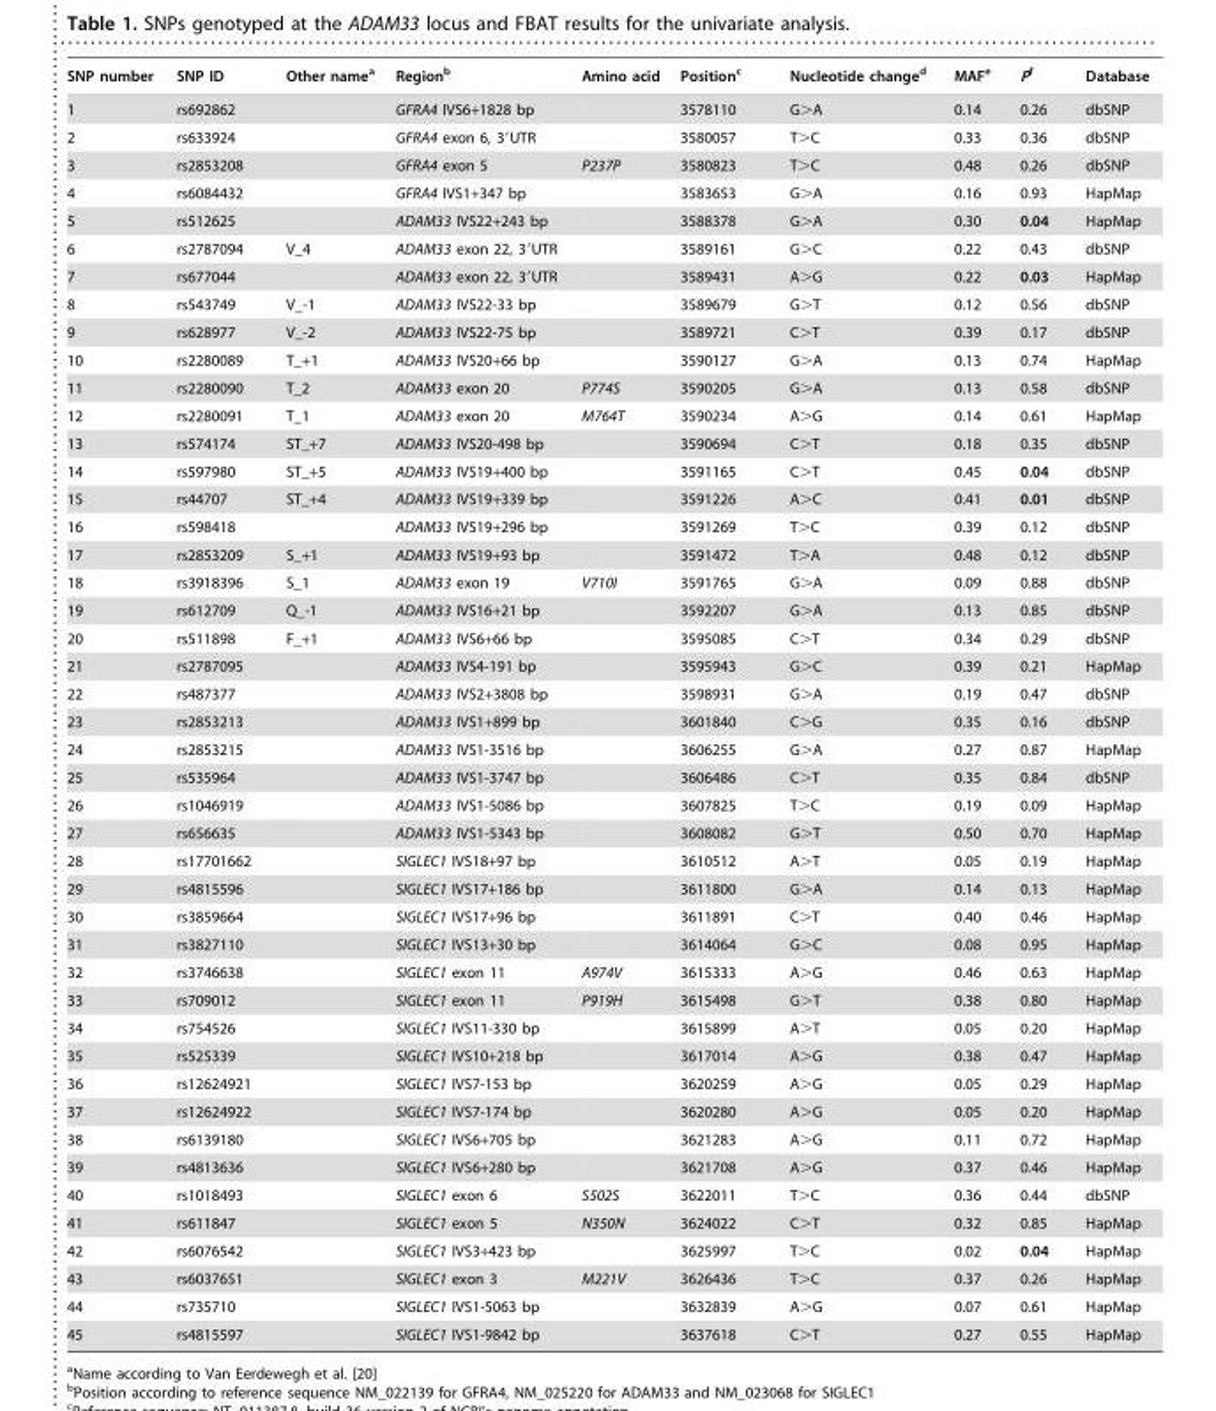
<table><thead><tr><td>SNP number</td><td>SNP ID</td><td>Other name<sup>a</sup></td><td>Region<sup>b</sup></td><td>Amino acid</td><td>Position<sup>c</sup></td><td>Nucleotide change<sup>d</sup></td><td>MAF<sup>e</sup></td><td>Pf</td><td>Database</td></tr></thead><tbody><tr><td>1</td><td>rs692862</td><td></td><td>GFRA4 IVS6+1828 bp</td><td></td><td>3578110</td><td>G&gt;A</td><td>0.14</td><td>0.26</td><td>dbSNP</td></tr><tr><td>2</td><td>rs633924</td><td></td><td>GFRA4 exon 6, 3′UTR</td><td></td><td>3580057</td><td>T&gt;C</td><td>0.33</td><td>0.36</td><td>dbSNP</td></tr><tr><td>3</td><td>rs2853208</td><td></td><td>GFRA4 exon 5</td><td>P237P</td><td>3580823</td><td>T&gt;C</td><td>0.48</td><td>0.26</td><td>dbSNP</td></tr><tr><td>4</td><td>rs6084432</td><td></td><td>GFRA4 IVS1+347 bp</td><td></td><td>3583653</td><td>G&gt;A</td><td>0.16</td><td>0.93</td><td>HapMap</td></tr><tr><td>5</td><td>rs512625</td><td></td><td>ADAM33 IVS22+243 bp</td><td></td><td>3588378</td><td>G&gt;A</td><td>0.30</td><td>0.04</td><td>HapMap</td></tr><tr><td>6</td><td>rs2787094</td><td>V_4</td><td>ADAM33 exon 22, 3′UTR</td><td></td><td>3589161</td><td>G&gt;C</td><td>0.22</td><td>0.43</td><td>dbSNP</td></tr><tr><td>7</td><td>rs677044</td><td></td><td>ADAM33 exon 22, 3′UTR</td><td></td><td>3589431</td><td>A&gt;G</td><td>0.22</td><td>0.03</td><td>HapMap</td></tr><tr><td>8</td><td>rs543749</td><td>V_-1</td><td>ADAM33 IVS22-33 bp</td><td></td><td>3589679</td><td>G&gt;T</td><td>0.12</td><td>0.56</td><td>dbSNP</td></tr><tr><td>9</td><td>rs628977</td><td>V_-2</td><td>ADAM33 IVS22-75 bp</td><td></td><td>3589721</td><td>C&gt;T</td><td>0.39</td><td>0.17</td><td>dbSNP</td></tr><tr><td>10</td><td>rs2280089</td><td>T_+1</td><td>ADAM33 IVS20+66 bp</td><td></td><td>3590127</td><td>G&gt;A</td><td>0.13</td><td>0.74</td><td>HapMap</td></tr><tr><td>11</td><td>rs2280090</td><td>T_2</td><td>ADAM33 exon 20</td><td>P774S</td><td>3590205</td><td>G&gt;A</td><td>0.13</td><td>0.58</td><td>dbSNP</td></tr><tr><td>12</td><td>rs2280091</td><td>T_1</td><td>ADAM33 exon 20</td><td>M764T</td><td>3590234</td><td>A&gt;G</td><td>0.14</td><td>0.61</td><td>HapMap</td></tr><tr><td>13</td><td>rs574174</td><td>ST_+7</td><td>ADAM33 IVS20-498 bp</td><td></td><td>3590694</td><td>C&gt;T</td><td>0.18</td><td>0.35</td><td>dbSNP</td></tr><tr><td>14</td><td>rs597980</td><td>ST_+5</td><td>ADAM33 IVS19+400 bp</td><td></td><td>3591165</td><td>C&gt;T</td><td>0.45</td><td>0.04</td><td>dbSNP</td></tr><tr><td>15</td><td>rs44707</td><td>ST_+4</td><td>ADAM33 IVS19+339 bp</td><td></td><td>3591226</td><td>A&gt;C</td><td>0.41</td><td>0.01</td><td>dbSNP</td></tr><tr><td>16</td><td>rs598418</td><td></td><td>ADAM33 IVS19+296 bp</td><td></td><td>3591269</td><td>T&gt;C</td><td>0.39</td><td>0.12</td><td>dbSNP</td></tr><tr><td>17</td><td>rs2853209</td><td>S_+1</td><td>ADAM33 IVS19+93 bp</td><td></td><td>3591472</td><td>T&gt;A</td><td>0.48</td><td>0.12</td><td>dbSNP</td></tr><tr><td>18</td><td>rs3918396</td><td>S_1</td><td>ADAM33 exon 19</td><td>V710I</td><td>3591765</td><td>G&gt;A</td><td>0.09</td><td>0.88</td><td>dbSNP</td></tr><tr><td>19</td><td>rs612709</td><td>Q_-1</td><td>ADAM33 IVS16+21 bp</td><td></td><td>3592207</td><td>G&gt;A</td><td>0.13</td><td>0.85</td><td>dbSNP</td></tr><tr><td>20</td><td>rs511898</td><td>F_+1</td><td>ADAM33 IVS6+66 bp</td><td></td><td>3595085</td><td>C&gt;T</td><td>0.34</td><td>0.29</td><td>dbSNP</td></tr><tr><td>21</td><td>rs2787095</td><td></td><td>ADAM33 IVS4-191 bp</td><td></td><td>3595943</td><td>G&gt;C</td><td>0.39</td><td>0.21</td><td>HapMap</td></tr><tr><td>22</td><td>rs487377</td><td></td><td>ADAM33 IVS2+3808 bp</td><td></td><td>3598931</td><td>G&gt;A</td><td>0.19</td><td>0.47</td><td>dbSNP</td></tr><tr><td>23</td><td>rs2853213</td><td></td><td>ADAM33 IVS1+899 bp</td><td></td><td>3601840</td><td>C&gt;G</td><td>0.35</td><td>0.16</td><td>dbSNP</td></tr><tr><td>24</td><td>rs2853215</td><td></td><td>ADAM33 IVS1-3516 bp</td><td></td><td>3606255</td><td>G&gt;A</td><td>0.27</td><td>0.87</td><td>HapMap</td></tr><tr><td>25</td><td>rs535964</td><td></td><td>ADAM33 IVS1-3747 bp</td><td></td><td>3606486</td><td>C&gt;T</td><td>0.35</td><td>0.84</td><td>dbSNP</td></tr><tr><td>26</td><td>rs1046919</td><td></td><td>ADAM33 IVS1-5086 bp</td><td></td><td>3607825</td><td>T&gt;C</td><td>0.19</td><td>0.09</td><td>HapMap</td></tr><tr><td>27</td><td>rs656635</td><td></td><td>ADAM33 IVS1-5343 bp</td><td></td><td>3608082</td><td>G&gt;T</td><td>0.50</td><td>0.70</td><td>HapMap</td></tr><tr><td>28</td><td>rs17701662</td><td></td><td>SIGLEC1 IVS18+97 bp</td><td></td><td>3610512</td><td>A&gt;T</td><td>0.05</td><td>0.19</td><td>HapMap</td></tr><tr><td>29</td><td>rs4815596</td><td></td><td>SIGLEC1 IVS17+186 bp</td><td></td><td>3611800</td><td>G&gt;A</td><td>0.14</td><td>0.13</td><td>HapMap</td></tr><tr><td>30</td><td>rs3859664</td><td></td><td>SIGLEC1 IVS17+96 bp</td><td></td><td>3611891</td><td>C&gt;T</td><td>0.40</td><td>0.46</td><td>HapMap</td></tr><tr><td>31</td><td>rs3827110</td><td></td><td>SIGLEC1 IVS13+30 bp</td><td></td><td>3614064</td><td>G&gt;C</td><td>0.08</td><td>0.95</td><td>HapMap</td></tr><tr><td>32</td><td>rs3746638</td><td></td><td>SIGLEC1 exon 11</td><td>A974V</td><td>3615333</td><td>A&gt;G</td><td>0.46</td><td>0.63</td><td>HapMap</td></tr><tr><td>33</td><td>rs709012</td><td></td><td>SIGLEC1 exon 11</td><td>P919H</td><td>3615498</td><td>G&gt;T</td><td>0.38</td><td>0.80</td><td>HapMap</td></tr><tr><td>34</td><td>rs754526</td><td></td><td>SIGLEC1 IVS11-330 bp</td><td></td><td>3615899</td><td>A&gt;T</td><td>0.05</td><td>0.20</td><td>HapMap</td></tr><tr><td>35</td><td>rs525339</td><td></td><td>SIGLEC1 IVS10+218 bp</td><td></td><td>3617014</td><td>A&gt;G</td><td>0.38</td><td>0.47</td><td>HapMap</td></tr><tr><td>36</td><td>rs12624921</td><td></td><td>SIGLEC1 IVS7-153 bp</td><td></td><td>3620259</td><td>A&gt;G</td><td>0.05</td><td>0.29</td><td>HapMap</td></tr><tr><td>37</td><td>rs12624922</td><td></td><td>SIGLEC1 IVS7-174 bp</td><td></td><td>3620280</td><td>A&gt;G</td><td>0.05</td><td>0.20</td><td>HapMap</td></tr><tr><td>38</td><td>rs6139180</td><td></td><td>SIGLEC1 IVS6+705 bp</td><td></td><td>3621283</td><td>A&gt;G</td><td>0.11</td><td>0.72</td><td>HapMap</td></tr><tr><td>39</td><td>rs4813636</td><td></td><td>SIGLEC1 IVS6+280 bp</td><td></td><td>3621708</td><td>A&gt;G</td><td>0.37</td><td>0.46</td><td>HapMap</td></tr><tr><td>40</td><td>rs1018493</td><td></td><td>SIGLEC1 exon 6</td><td>S502S</td><td>3622011</td><td>T&gt;C</td><td>0.36</td><td>0.44</td><td>dbSNP</td></tr><tr><td>41</td><td>rs611847</td><td></td><td>SIGLEC1 exon 5</td><td>N350N</td><td>3624022</td><td>C&gt;T</td><td>0.32</td><td>0.85</td><td>HapMap</td></tr><tr><td>42</td><td>rs6076542</td><td></td><td>SIGLEC1 IVS3+423 bp</td><td></td><td>3625997</td><td>T&gt;C</td><td>0.02</td><td>0.04</td><td>HapMap</td></tr><tr><td>43</td><td>rs6037651</td><td></td><td>SIGLEC1 exon 3</td><td>M221V</td><td>3626436</td><td>T&gt;C</td><td>0.37</td><td>0.26</td><td>HapMap</td></tr><tr><td>44</td><td>rs735710</td><td></td><td>SIGLEC1 IVS1-5063 bp</td><td></td><td>3632839</td><td>A&gt;G</td><td>0.07</td><td>0.61</td><td>HapMap</td></tr><tr><td>45</td><td>rs4815597</td><td></td><td>SIGLEC1 IVS1-9842 bp</td><td></td><td>3637618</td><td>C&gt;T</td><td>0.27</td><td>0.55</td><td>HapMap</td></tr></tbody></table>